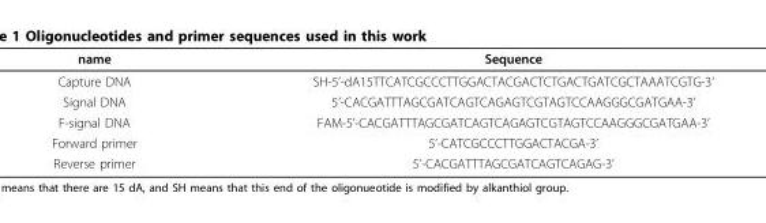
<table><thead><tr><td>name</td><td>Sequence</td></tr></thead><tbody><tr><td>Capture DNA</td><td>SH-5’-dA15TTCATCGCCCTTGGACTACGACTCTGACTGATCGCTAAATCGTG-3’</td></tr><tr><td>Signal DNA</td><td>5’-CACGATTTAGCGATCAGTCAGAGTCGTAGTCCAAGGGCGATGAA-3’</td></tr><tr><td>F-signal DNA</td><td>FAM-5’-CACGATTTAGCGATCAGTCAGAGTCGTAGTCCAAGGGCGATGAA-3’</td></tr><tr><td>Forward primer</td><td>5’-CATCGCCCTTGGACTACGA-3’</td></tr><tr><td>Reverse primer</td><td>5’-CACGATTTAGCGATCAGTCAGAG-3’</td></tr></tbody></table>